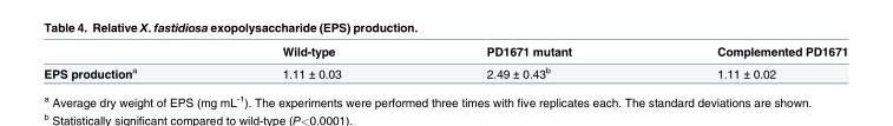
<table><thead><tr><td></td><td>Wild-type</td><td>PD1671 mutant</td><td>Complemented PD1671</td></tr></thead><tbody><tr><td>EPS production<sup>a</sup></td><td>1.11 ± 0.03</td><td>2.49 ± 0.43<sup>b</sup></td><td>1.11 ± 0.02</td></tr></tbody></table>